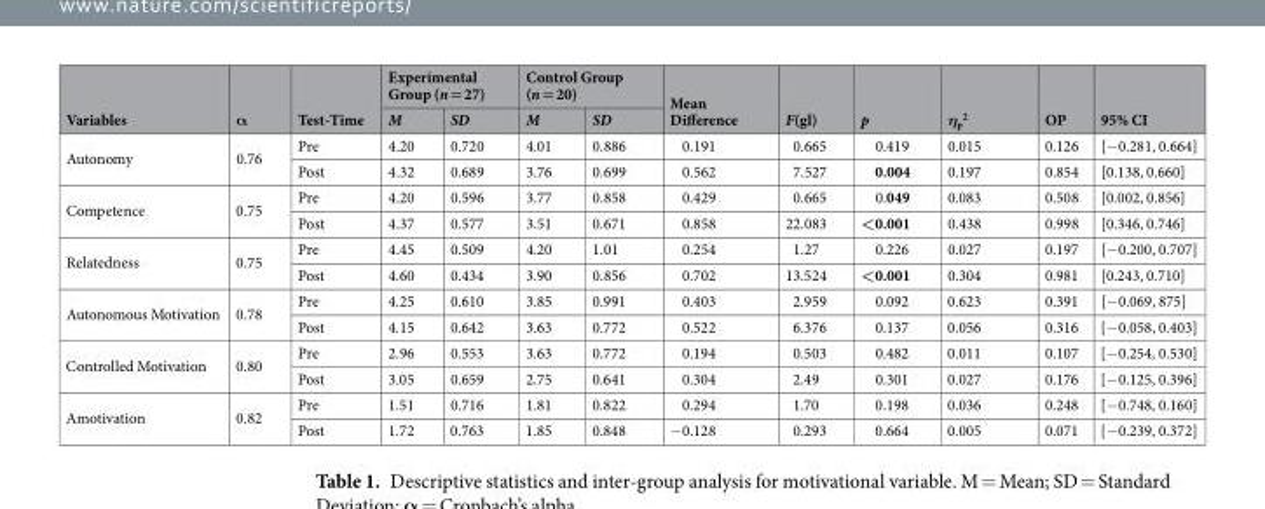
<table><thead><tr><td rowspan="2">Variables</td><td rowspan="2">α</td><td rowspan="2">Test-Time</td><td colspan="2">Experimental Group (n = 27)</td><td colspan="2">Control Group (n = 20)</td><td rowspan="2">Mean Difference</td><td rowspan="2">F(gl)</td><td rowspan="2">p</td><td rowspan="2">η<sub>p</sub> <sup>2</sup></td><td rowspan="2">OP</td><td rowspan="2">95% CI</td></tr><tr><td>M</td><td>SD</td><td>M</td><td>SD</td></tr></thead><tbody><tr><td rowspan="2">Autonomy</td><td rowspan="2">0.76</td><td>Pre</td><td>4.20</td><td>0.720</td><td>4.01</td><td>0.886</td><td>0.191</td><td>0.665</td><td>0.419</td><td>0.015</td><td>0.126</td><td>[−0.281, 0.664]</td></tr><tr><td>Post</td><td>4.32</td><td>0.689</td><td>3.76</td><td>0.699</td><td>0.562</td><td>7.527</td><td>0.004</td><td>0.197</td><td>0.854</td><td>[0.138, 0.660]</td></tr><tr><td rowspan="2">Competence</td><td rowspan="2">0.75</td><td>Pre</td><td>4.20</td><td>0.596</td><td>3.77</td><td>0.858</td><td>0.429</td><td>0.665</td><td>0.049</td><td>0.083</td><td>0.508</td><td>[0.002, 0.856]</td></tr><tr><td>Post</td><td>4.37</td><td>0.577</td><td>3.51</td><td>0.671</td><td>0.858</td><td>22.083</td><td>&lt;0.001</td><td>0.438</td><td>0.998</td><td>[0.346, 0.746]</td></tr><tr><td rowspan="2">Relatedness</td><td rowspan="2">0.75</td><td>Pre</td><td>4.45</td><td>0.509</td><td>4.20</td><td>1.01</td><td>0.254</td><td>1.27</td><td>0.226</td><td>0.027</td><td>0.197</td><td>[−0.200, 0.707]</td></tr><tr><td>Post</td><td>4.60</td><td>0.434</td><td>3.90</td><td>0.856</td><td>0.702</td><td>13.524</td><td>&lt;0.001</td><td>0.304</td><td>0.981</td><td>[0.243, 0.710]</td></tr><tr><td rowspan="2">Autonomous Motivation</td><td rowspan="2">0.78</td><td>Pre</td><td>4.25</td><td>0.610</td><td>3.85</td><td>0.991</td><td>0.403</td><td>2.959</td><td>0.092</td><td>0.623</td><td>0.391</td><td>[−0.069, 875]</td></tr><tr><td>Post</td><td>4.15</td><td>0.642</td><td>3.63</td><td>0.772</td><td>0.522</td><td>6.376</td><td>0.137</td><td>0.056</td><td>0.316</td><td>[−0.058, 0.403]</td></tr><tr><td rowspan="2">Controlled Motivation</td><td rowspan="2">0.80</td><td>Pre</td><td>2.96</td><td>0.553</td><td>3.63</td><td>0.772</td><td>0.194</td><td>0.503</td><td>0.482</td><td>0.011</td><td>0.107</td><td>[−0.254, 0.530]</td></tr><tr><td>Post</td><td>3.05</td><td>0.659</td><td>2.75</td><td>0.641</td><td>0.304</td><td>2.49</td><td>0.301</td><td>0.027</td><td>0.176</td><td>[−0.125, 0.396]</td></tr><tr><td rowspan="2">Amotivation</td><td rowspan="2">0.82</td><td>Pre</td><td>1.51</td><td>0.716</td><td>1.81</td><td>0.822</td><td>0.294</td><td>1.70</td><td>0.198</td><td>0.036</td><td>0.248</td><td>[−0.748, 0.160]</td></tr><tr><td>Post</td><td>1.72</td><td>0.763</td><td>1.85</td><td>0.848</td><td>−0.128</td><td>0.293</td><td>0.664</td><td>0.005</td><td>0.071</td><td>[−0.239, 0.372]</td></tr></tbody></table>